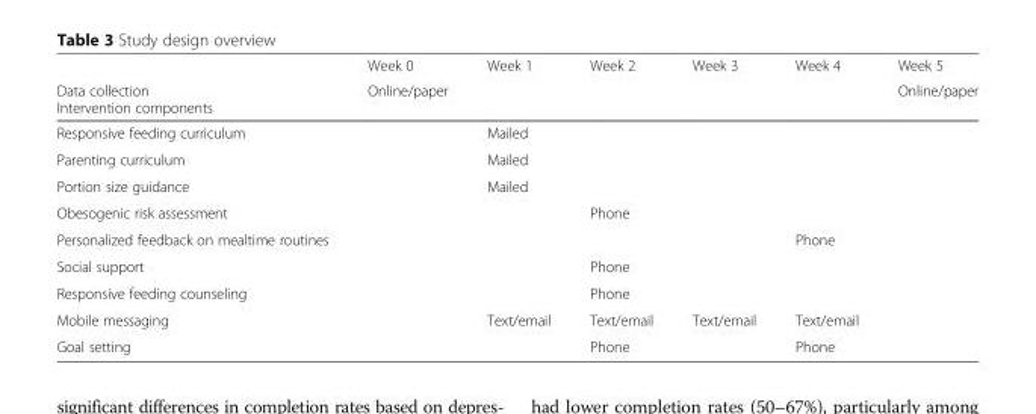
<table><thead><tr><td rowspan="2">Data collection Intervention components</td><td rowspan="2">Week 0 Online/paper</td><td rowspan="2">Week 1</td><td rowspan="2">Week 2</td><td rowspan="2">Week 3</td><td rowspan="2">Week 4</td><td rowspan="2">Week 5 Online/paper</td></tr><tr></tr></thead><tbody><tr><td>Responsive feeding curriculum</td><td></td><td>Mailed</td><td></td><td></td><td></td><td></td></tr><tr><td>Parenting curriculum</td><td></td><td>Mailed</td><td></td><td></td><td></td><td></td></tr><tr><td>Portion size guidance</td><td></td><td>Mailed</td><td></td><td></td><td></td><td></td></tr><tr><td>Obesogenic risk assessment</td><td></td><td></td><td>Phone</td><td></td><td></td><td></td></tr><tr><td>Personalized feedback on mealtime routines</td><td></td><td></td><td></td><td></td><td>Phone</td><td></td></tr><tr><td>Social support</td><td></td><td></td><td>Phone</td><td></td><td></td><td></td></tr><tr><td>Responsive feeding counseling</td><td></td><td></td><td>Phone</td><td></td><td></td><td></td></tr><tr><td>Mobile messaging</td><td></td><td>Text/email</td><td>Text/email</td><td>Text/email</td><td>Text/email</td><td></td></tr><tr><td>Goal setting</td><td></td><td></td><td>Phone</td><td></td><td>Phone</td><td></td></tr></tbody></table>